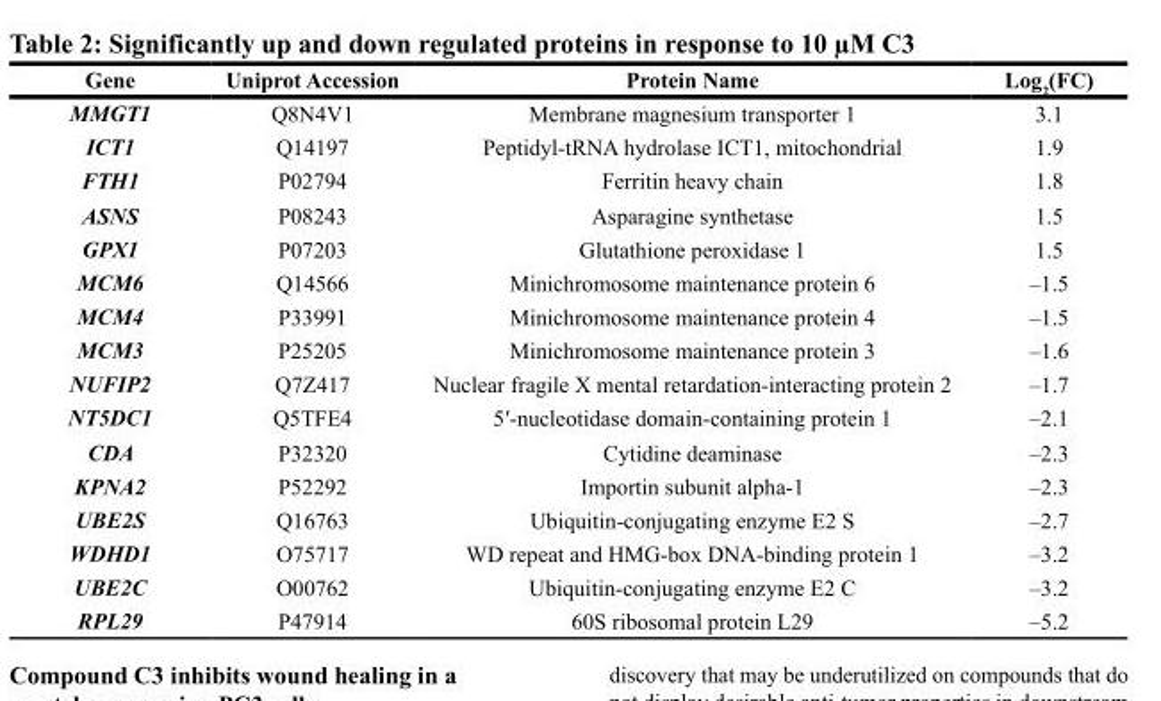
<table><thead><tr><td>Gene</td><td>Uniprot Accession</td><td>Protein Name</td><td>Log<sub>2</sub>(FC)</td></tr></thead><tbody><tr><td>MMGT1</td><td>Q8N4V1</td><td>Membrane magnesium transporter 1</td><td>3.1</td></tr><tr><td>ICT1</td><td>Q14197</td><td>Peptidyl-tRNA hydrolase ICT1, mitochondrial</td><td>1.9</td></tr><tr><td>FTH1</td><td>P02794</td><td>Ferritin heavy chain</td><td>1.8</td></tr><tr><td>ASNS</td><td>P08243</td><td>Asparagine synthetase</td><td>1.5</td></tr><tr><td>GPX1</td><td>P07203</td><td>Glutathione peroxidase 1</td><td>1.5</td></tr><tr><td>MCM6</td><td>Q14566</td><td>Minichromosome maintenance protein 6</td><td>–1.5</td></tr><tr><td>MCM4</td><td>P33991</td><td>Minichromosome maintenance protein 4</td><td>–1.5</td></tr><tr><td>MCM3</td><td>P25205</td><td>Minichromosome maintenance protein 3</td><td>–1.6</td></tr><tr><td>NUFIP2</td><td>Q7Z417</td><td>Nuclear fragile X mental retardation-interacting protein 2</td><td>–1.7</td></tr><tr><td>NT5DC1</td><td>Q5TFE4</td><td>5′-nucleotidase domain-containing protein 1</td><td>–2.1</td></tr><tr><td>CDA</td><td>P32320</td><td>Cytidine deaminase</td><td>–2.3</td></tr><tr><td>KPNA2</td><td>P52292</td><td>Importin subunit alpha-1</td><td>–2.3</td></tr><tr><td>UBE2S</td><td>Q16763</td><td>Ubiquitin-conjugating enzyme E2 S</td><td>–2.7</td></tr><tr><td>WDHD1</td><td>O75717</td><td>WD repeat and HMG-box DNA-binding protein 1</td><td>–3.2</td></tr><tr><td>UBE2C</td><td>O00762</td><td>Ubiquitin-conjugating enzyme E2 C</td><td>–3.2</td></tr><tr><td>RPL29</td><td>P47914</td><td>60S ribosomal protein L29</td><td>–5.2</td></tr></tbody></table>